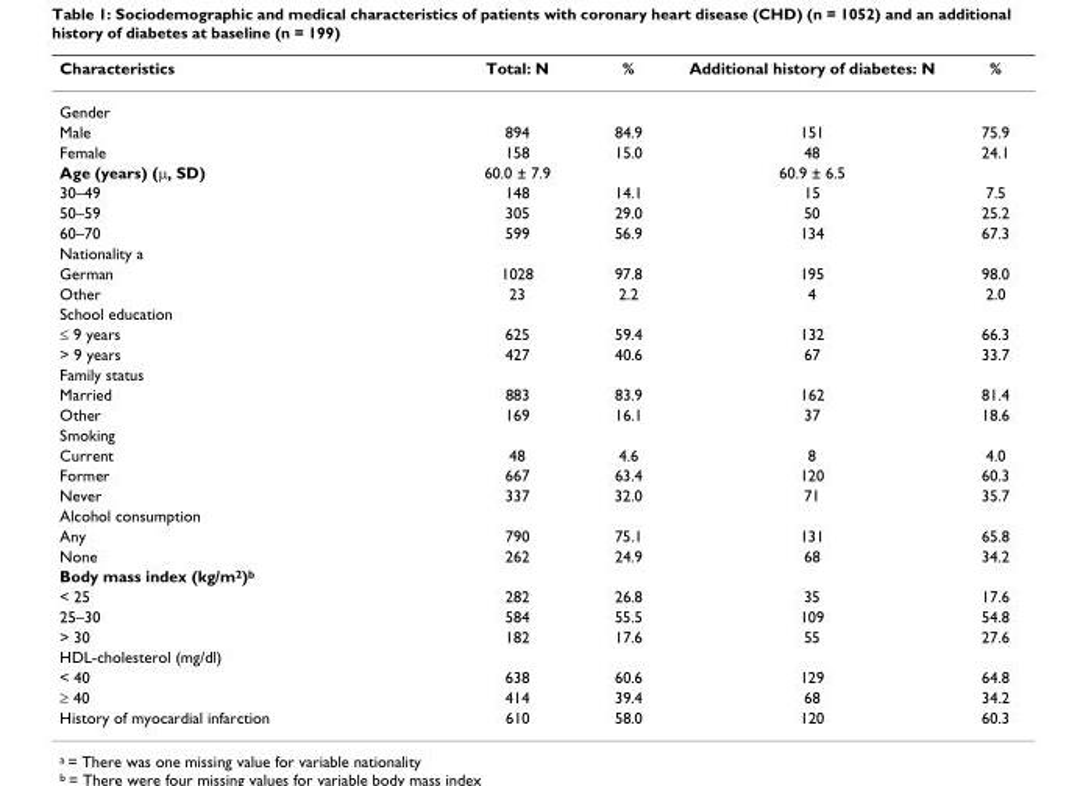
<table><thead><tr><td>Characteristics</td><td>Total: N</td><td>%</td><td>Additional history of diabetes: N</td><td>%</td></tr></thead><tbody><tr><td colspan="5">Gender</td></tr><tr><td>Male</td><td>894</td><td>84.9</td><td>151</td><td>75.9</td></tr><tr><td>Female</td><td>158</td><td>15.0</td><td>48</td><td>24.1</td></tr><tr><td>Age (years) (µ, SD)</td><td>60.0 ± 7.9</td><td></td><td>60.9 ± 6.5</td><td></td></tr><tr><td>30–49</td><td>148</td><td>14.1</td><td>15</td><td>7.5</td></tr><tr><td>50–59</td><td>305</td><td>29.0</td><td>50</td><td>25.2</td></tr><tr><td>60–70</td><td>599</td><td>56.9</td><td>134</td><td>67.3</td></tr><tr><td colspan="5">Nationality a</td></tr><tr><td>German</td><td>1028</td><td>97.8</td><td>195</td><td>98.0</td></tr><tr><td>Other</td><td>23</td><td>2.2</td><td>4</td><td>2.0</td></tr><tr><td colspan="5">School education</td></tr><tr><td>≤ 9 years</td><td>625</td><td>59.4</td><td>132</td><td>66.3</td></tr><tr><td>&gt; 9 years</td><td>427</td><td>40.6</td><td>67</td><td>33.7</td></tr><tr><td colspan="5">Family status</td></tr><tr><td>Married</td><td>883</td><td>83.9</td><td>162</td><td>81.4</td></tr><tr><td>Other</td><td>169</td><td>16.1</td><td>37</td><td>18.6</td></tr><tr><td colspan="5">Smoking</td></tr><tr><td>Current</td><td>48</td><td>4.6</td><td>8</td><td>4.0</td></tr><tr><td>Former</td><td>667</td><td>63.4</td><td>120</td><td>60.3</td></tr><tr><td>Never</td><td>337</td><td>32.0</td><td>71</td><td>35.7</td></tr><tr><td colspan="5">Alcohol consumption</td></tr><tr><td>Any</td><td>790</td><td>75.1</td><td>131</td><td>65.8</td></tr><tr><td>None</td><td>262</td><td>24.9</td><td>68</td><td>34.2</td></tr><tr><td colspan="5">Body mass index (kg/m<sup>2</sup>)<sup>b</sup></td></tr><tr><td>&lt; 25</td><td>282</td><td>26.8</td><td>35</td><td>17.6</td></tr><tr><td>25–30</td><td>584</td><td>55.5</td><td>109</td><td>54.8</td></tr><tr><td>&gt; 30</td><td>182</td><td>17.6</td><td>55</td><td>27.6</td></tr><tr><td colspan="5">HDL-cholesterol (mg/dl)</td></tr><tr><td>&lt; 40</td><td>638</td><td>60.6</td><td>129</td><td>64.8</td></tr><tr><td>≥ 40</td><td>414</td><td>39.4</td><td>68</td><td>34.2</td></tr><tr><td>History of myocardial infarction</td><td>610</td><td>58.0</td><td>120</td><td>60.3</td></tr></tbody></table>